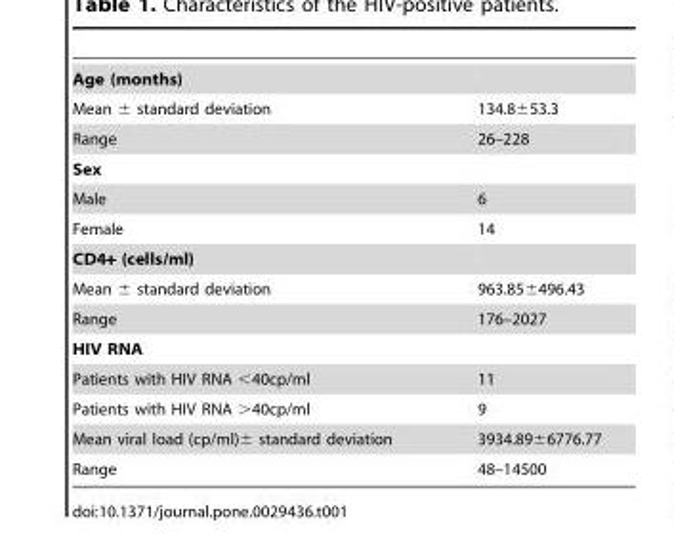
<table><tbody><tr><td colspan="2">Age (months)</td></tr><tr><td>Mean ± standard deviation</td><td>134.8±53.3</td></tr><tr><td>Range</td><td>26–228</td></tr><tr><td colspan="2">Sex</td></tr><tr><td>Male</td><td>6</td></tr><tr><td>Female</td><td>14</td></tr><tr><td colspan="2">CD4+ (cells/ml)</td></tr><tr><td>Mean ± standard deviation</td><td>963.85±496.43</td></tr><tr><td>Range</td><td>176–2027</td></tr><tr><td colspan="2">HIV RNA</td></tr><tr><td>Patients with HIV RNA &lt;40cp/ml</td><td>11</td></tr><tr><td>Patients with HIV RNA &gt;40cp/ml</td><td>9</td></tr><tr><td>Mean viral load (cp/ml)± standard deviation</td><td>3934.89±6776.77</td></tr><tr><td>Range</td><td>48–14500</td></tr></tbody></table>